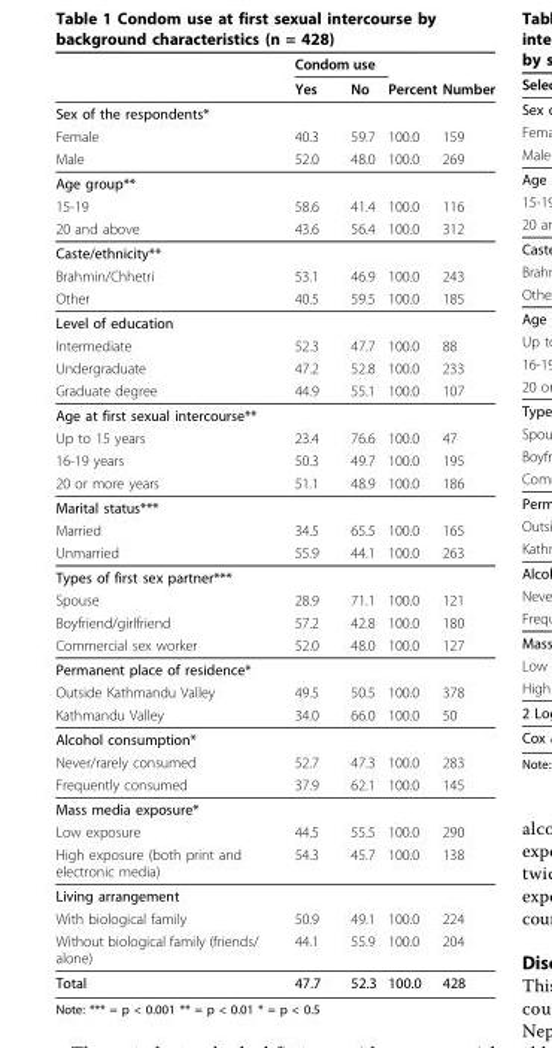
<table><thead><tr><td rowspan="2"></td><td colspan="2">Condom use</td><td rowspan="2">Percent</td><td rowspan="2">Number</td></tr><tr><td>Yes</td><td>No</td></tr></thead><tbody><tr><td colspan="5">Sex of the respondents*</td></tr><tr><td>Female</td><td>40.3</td><td>59.7</td><td>100.0</td><td>159</td></tr><tr><td>Male</td><td>52.0</td><td>48.0</td><td>100.0</td><td>269</td></tr><tr><td colspan="5">Age group**</td></tr><tr><td>15-19</td><td>58.6</td><td>41.4</td><td>100.0</td><td>116</td></tr><tr><td>20 and above</td><td>43.6</td><td>56.4</td><td>100.0</td><td>312</td></tr><tr><td colspan="5">Caste/ethnicity**</td></tr><tr><td>Brahmin/Chhetri</td><td>53.1</td><td>46.9</td><td>100.0</td><td>243</td></tr><tr><td>Other</td><td>40.5</td><td>59.5</td><td>100.0</td><td>185</td></tr><tr><td colspan="5">Level of education</td></tr><tr><td>Intermediate</td><td>52.3</td><td>47.7</td><td>100.0</td><td>88</td></tr><tr><td>Undergraduate</td><td>47.2</td><td>52.8</td><td>100.0</td><td>233</td></tr><tr><td>Graduate degree</td><td>44.9</td><td>55.1</td><td>100.0</td><td>107</td></tr><tr><td colspan="5">Age at first sexual intercourse**</td></tr><tr><td>Up to 15 years</td><td>23.4</td><td>76.6</td><td>100.0</td><td>47</td></tr><tr><td>16-19 years</td><td>50.3</td><td>49.7</td><td>100.0</td><td>195</td></tr><tr><td>20 or more years</td><td>51.1</td><td>48.9</td><td>100.0</td><td>186</td></tr><tr><td colspan="5">Marital status***</td></tr><tr><td>Married</td><td>34.5</td><td>65.5</td><td>100.0</td><td>165</td></tr><tr><td>Unmarried</td><td>55.9</td><td>44.1</td><td>100.0</td><td>263</td></tr><tr><td colspan="5">Types of first sex partner***</td></tr><tr><td>Spouse</td><td>28.9</td><td>71.1</td><td>100.0</td><td>121</td></tr><tr><td>Boyfriend/girlfriend</td><td>57.2</td><td>42.8</td><td>100.0</td><td>180</td></tr><tr><td>Commercial sex worker</td><td>52.0</td><td>48.0</td><td>100.0</td><td>127</td></tr><tr><td colspan="5">Permanent place of residence*</td></tr><tr><td>Outside Kathmandu Valley</td><td>49.5</td><td>50.5</td><td>100.0</td><td>378</td></tr><tr><td>Kathmandu Valley</td><td>34.0</td><td>66.0</td><td>100.0</td><td>50</td></tr><tr><td colspan="5">Alcohol consumption*</td></tr><tr><td>Never/rarely consumed</td><td>52.7</td><td>47.3</td><td>100.0</td><td>283</td></tr><tr><td>Frequently consumed</td><td>37.9</td><td>62.1</td><td>100.0</td><td>145</td></tr><tr><td colspan="5">Mass media exposure*</td></tr><tr><td>Low exposure</td><td>44.5</td><td>55.5</td><td>100.0</td><td>290</td></tr><tr><td>High exposure (both print and electronic media)</td><td>54.3</td><td>45.7</td><td>100.0</td><td>138</td></tr><tr><td colspan="5">Living arrangement</td></tr><tr><td>With biological family</td><td>50.9</td><td>49.1</td><td>100.0</td><td>224</td></tr><tr><td>Without biological family (friends/ alone)</td><td>44.1</td><td>55.9</td><td>100.0</td><td>204</td></tr><tr><td>Total</td><td>47.7</td><td>52.3</td><td>100.0</td><td>428</td></tr></tbody></table>